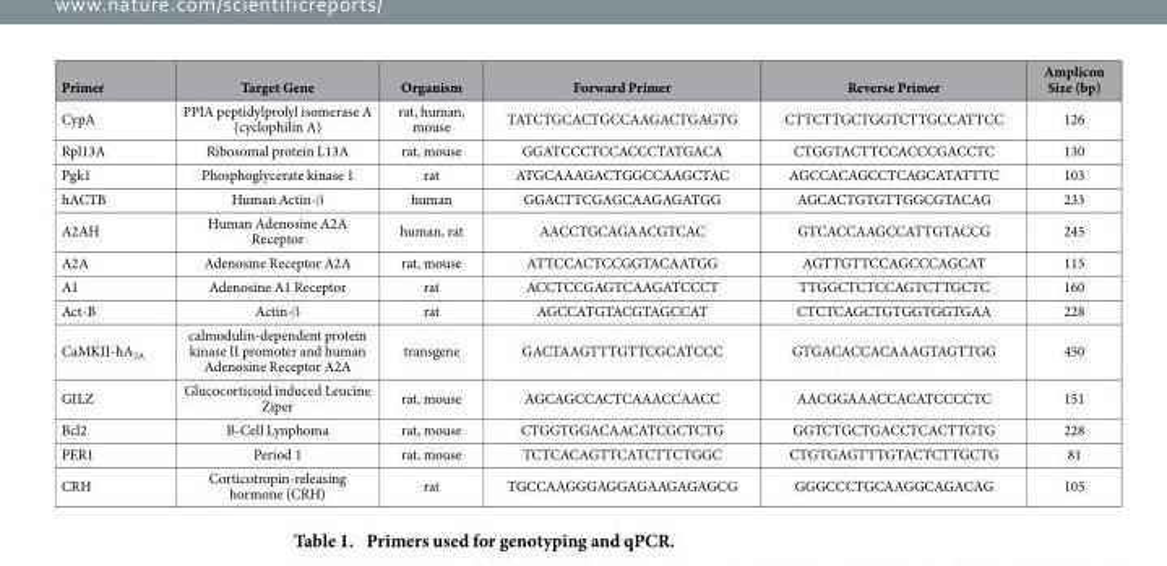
<table><thead><tr><td>Primer</td><td>Target Gene</td><td>Organism</td><td>Forward Primer</td><td>Reverse Primer</td><td>Amplicon Size (bp)</td></tr></thead><tbody><tr><td>CypA</td><td>PPIA peptidylprolyl isomerase A (cyclophilin A)</td><td>rat, human, mouse</td><td>TATCTGCACTGCCAAGACTGAGTG</td><td>CTTCTTGCTGGTCTTGCCATTCC</td><td>126</td></tr><tr><td>Rpl13A</td><td>Ribosomal protein L13A</td><td>rat, mouse</td><td>GGATCCCTCCACCCTATGACA</td><td>CTGGTACTTCCACCCGACCTC</td><td>130</td></tr><tr><td>Pgk1</td><td>Phosphoglycerate kinase 1</td><td>rat</td><td>ATGCAAAGACTGGCCAAGCTAC</td><td>AGCCACAGCCTCAGCATATTTC</td><td>103</td></tr><tr><td>hACTB</td><td>Human Actin-β</td><td>human</td><td>GGACTTCGAGCAAGAGATGG</td><td>AGCACTGTGTTGGCGTACAG</td><td>233</td></tr><tr><td>A2AH</td><td>Human Adenosine A2A Receptor</td><td>human, rat</td><td>AACCTGCAGAACGTCAC</td><td>GTCACCAAGCCATTGTACCG</td><td>245</td></tr><tr><td>A2A</td><td>Adenosine Receptor A2A</td><td>rat, mouse</td><td>ATTCCACTCCGGTACAATGG</td><td>AGTTGTTCCAGCCCAGCAT</td><td>115</td></tr><tr><td>A1</td><td>Adenosine A1 Receptor</td><td>rat</td><td>ACCTCCGAGTCAAGATCCCT</td><td>TTGGCTCTCCAGTCTTGCTC</td><td>160</td></tr><tr><td>Act-B</td><td>Actin-β</td><td>rat</td><td>AGCCATGTACGTAGCCAT</td><td>CTCTCAGCTGTGGTGGTGAA</td><td>228</td></tr><tr><td>CaMKII-hA<sub>2A</sub></td><td>calmodulin-dependent protein kinase II promoter and human Adenosine Receptor A2A</td><td>transgene</td><td>GACTAAGTTTGTTCGCATCCC</td><td>GTGACACCACAAAGTAGTTGG</td><td>450</td></tr><tr><td>GILZ</td><td>Glucocorticoid induced Leucine Ziper</td><td>rat, mouse</td><td>AGCAGCCACTCAAACCAACC</td><td>AACGGAAACCACATCCCCTC</td><td>151</td></tr><tr><td>Bcl2</td><td>B-Cell Lynphoma</td><td>rat, mouse</td><td>CTGGTGGACAACATCGCTCTG</td><td>GGTCTGCTGACCTCACTTGTG</td><td>228</td></tr><tr><td>PER1</td><td>Period 1</td><td>rat, mouse</td><td>TCTCACAGTTCATCTTCTGGC</td><td>CTGTGAGTTTGTACTCTTGCTG</td><td>81</td></tr><tr><td>CRH</td><td>Corticotropin-releasing hormone (CRH)</td><td>rat</td><td>TGCCAAGGGAGGAGAAGAGAGCG</td><td>GGGCCCTGCAAGGCAGACAG</td><td>105</td></tr></tbody></table>